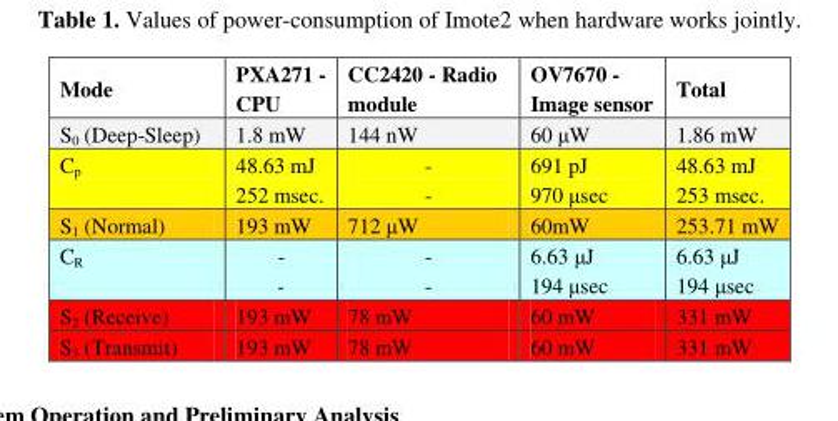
<table><thead><tr><td>Mode</td><td>PXA271 - CPU</td><td>CC2420 - Radio module</td><td>OV7670 - Image sensor</td><td>Total</td></tr></thead><tbody><tr><td>S<sub>0</sub> (Deep-Sleep)</td><td>1.8 mW</td><td>144 nW</td><td>60 μW</td><td>1.86 mW</td></tr><tr><td>C<sub>p</sub></td><td>48.63 mJ 252 msec.</td><td>- -</td><td>691 pJ 970 μsec</td><td>48.63 mJ 253 msec.</td></tr><tr><td>S<sub>1</sub> (Normal)</td><td>193 mW</td><td>712 μW</td><td>60mW</td><td>253.71 mW</td></tr><tr><td>C<sub>R</sub></td><td>- -</td><td>- -</td><td>6.63 μJ 194 μsec</td><td>6.63 μJ 194 μsec</td></tr><tr><td>S<sub>2</sub> (Receive)</td><td>193 mW</td><td>78 mW</td><td>60 mW</td><td>331 mW</td></tr><tr><td>S<sub>3</sub> (Transmit)</td><td>193 mW</td><td>78 mW</td><td>60 mW</td><td>331 mW</td></tr></tbody></table>